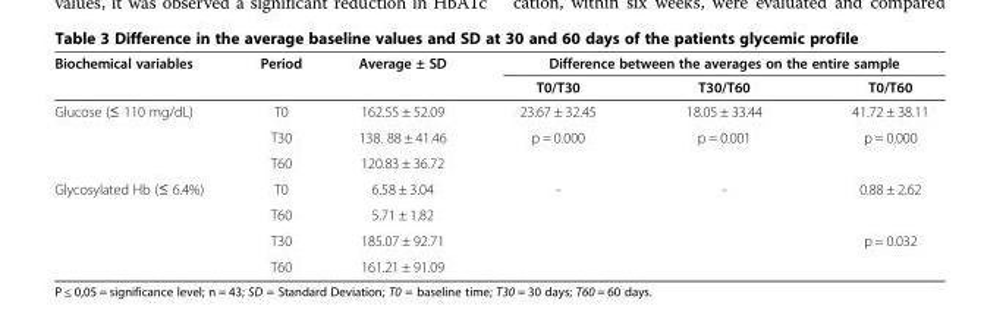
<table><thead><tr><td rowspan="2">Biochemical variables</td><td rowspan="2">Period</td><td rowspan="2">Average ± SD</td><td colspan="3">Difference between the averages on the entire sample</td></tr><tr><td>T0/T30</td><td>T30/T60</td><td>T0/T60</td></tr></thead><tbody><tr><td rowspan="3">Glucose (≤ 110 mg/dL)</td><td>T0</td><td>162.55 ± 52.09</td><td>23.67 ± 32.45</td><td>18.05 ± 33.44</td><td>41.72 ± 38.11</td></tr><tr><td>T30</td><td>138. 88 ± 41.46</td><td rowspan="2">p = 0.000</td><td rowspan="2">p = 0.001</td><td rowspan="2">p = 0.000</td></tr><tr><td>T60</td><td>120.83 ± 36.72</td></tr><tr><td rowspan="4">Glycosylated Hb (≤ 6.4%)</td><td>T0</td><td>6.58 ± 3.04</td><td rowspan="3">-</td><td rowspan="3">-</td><td rowspan="2">0.88 ± 2.62</td></tr><tr><td>T60</td><td>5.71 ± 1.82</td></tr><tr><td>T30</td><td>185.07 ± 92.71</td><td>p = 0.032</td></tr><tr><td>T60</td><td>161.21 ± 91.09</td><td></td><td></td><td></td></tr></tbody></table>